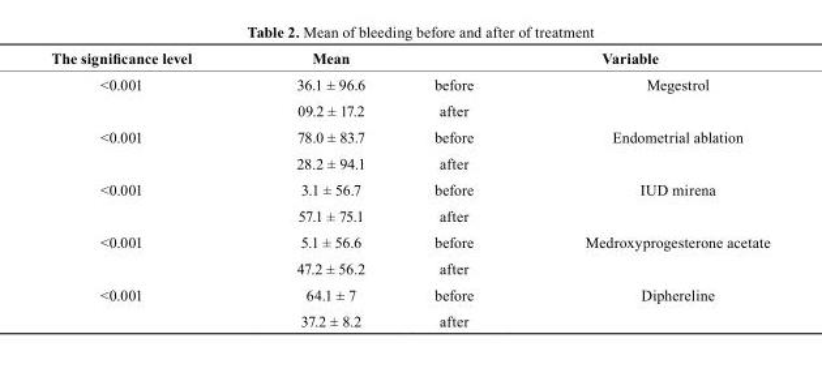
<table><thead><tr><td rowspan="2">The significance level &lt;0.001</td><td rowspan="2">Mean 36.1 ± 96.6</td><td colspan="2">Variable</td></tr><tr><td>before</td><td>Megestrol</td></tr></thead><tbody><tr><td></td><td>09.2 ± 17.2</td><td>after</td><td></td></tr><tr><td rowspan="2">&lt;0.001</td><td>78.0 ± 83.7</td><td>before</td><td>Endometrial ablation</td></tr><tr><td>28.2 ± 94.1</td><td>after</td><td></td></tr><tr><td rowspan="2">&lt;0.001</td><td>3.1 ± 56.7</td><td>before</td><td>IUD mirena</td></tr><tr><td>57.1 ± 75.1</td><td>after</td><td></td></tr><tr><td rowspan="2">&lt;0.001</td><td>5.1 ± 56.6</td><td>before</td><td>Medroxyprogesterone acetate</td></tr><tr><td>47.2 ± 56.2</td><td>after</td><td></td></tr><tr><td rowspan="2">&lt;0.001</td><td>64.1 ± 7</td><td>before</td><td>Diphereline</td></tr><tr><td>37.2 ± 8.2</td><td>after</td><td></td></tr></tbody></table>